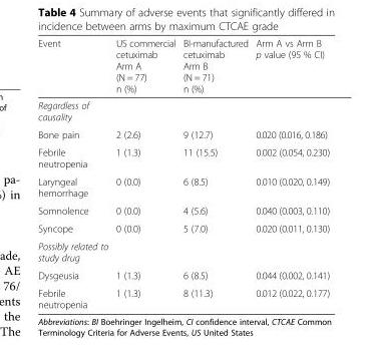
<table><thead><tr><td>Event</td><td>US commercial cetuximab Arm A (N = 77) n (%)</td><td>BI-manufactured cetuximab Arm B (N = 71) n (%)</td><td>Arm A vs Arm B p value (95 % CI)</td></tr></thead><tbody><tr><td colspan="4">Regardless of causality</td></tr><tr><td>Bone pain</td><td>2 (2.6)</td><td>9 (12.7)</td><td>0.020 (0.016, 0.186)</td></tr><tr><td>Febrile neutropenia</td><td>1 (1.3)</td><td>11 (15.5)</td><td>0.002 (0.054, 0.230)</td></tr><tr><td>Laryngeal hemorrhage</td><td>0 (0.0)</td><td>6 (8.5)</td><td>0.010 (0.020, 0.149)</td></tr><tr><td>Somnolence</td><td>0 (0.0)</td><td>4 (5.6)</td><td>0.040 (0.003, 0.110)</td></tr><tr><td>Syncope</td><td>0 (0.0)</td><td>5 (7.0)</td><td>0.020 (0.011, 0.130)</td></tr><tr><td colspan="4">Possibly related to study drug</td></tr><tr><td>Dysgeusia</td><td>1 (1.3)</td><td>6 (8.5)</td><td>0.044 (0.002, 0.141)</td></tr><tr><td>Febrile neutropenia</td><td>1 (1.3)</td><td>8 (11.3)</td><td>0.012 (0.022, 0.177)</td></tr></tbody></table>